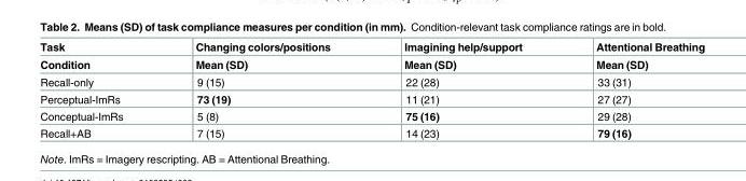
<table><thead><tr><td rowspan="2">Task Condition</td><td rowspan="2">Changing colors/positions Mean (SD)</td><td rowspan="2">Imagining help/support Mean (SD)</td><td rowspan="2">Attentional Breathing Mean (SD)</td></tr><tr></tr></thead><tbody><tr><td>Recall-only</td><td>9 (15)</td><td>22 (28)</td><td>33 (31)</td></tr><tr><td>Perceptual-ImRs</td><td>73 (19)</td><td>11 (21)</td><td>27 (27)</td></tr><tr><td>Conceptual-ImRs</td><td>5 (8)</td><td>75 (16)</td><td>29 (28)</td></tr><tr><td>Recall+AB</td><td>7 (15)</td><td>14 (23)</td><td>79 (16)</td></tr></tbody></table>